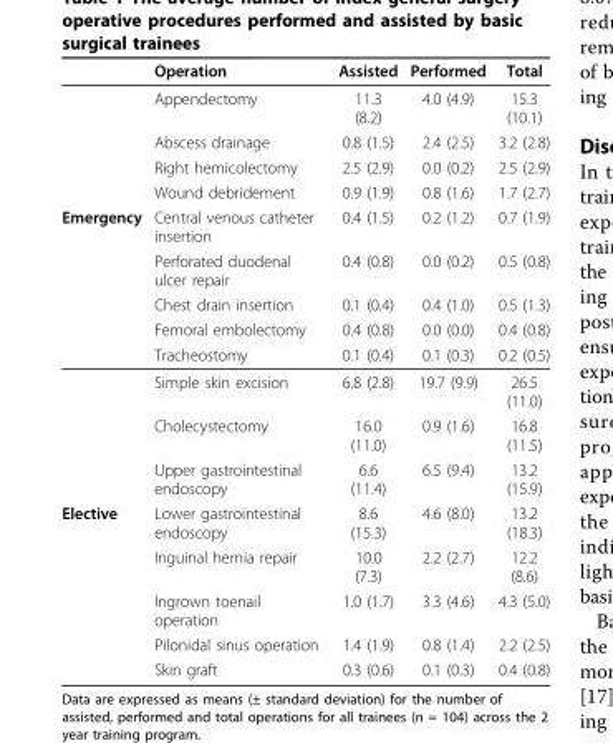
<table><thead><tr><td></td><td>Operation</td><td>Assisted</td><td>Performed</td><td>Total</td></tr></thead><tbody><tr><td></td><td>Appendectomy</td><td>11.3 (8.2)</td><td>4.0 (4.9)</td><td>15.3 (10.1)</td></tr><tr><td></td><td>Abscess drainage</td><td>0.8 (1.5)</td><td>2.4 (2.5)</td><td>3.2 (2.8)</td></tr><tr><td></td><td>Right hemicolectomy</td><td>2.5 (2.9)</td><td>0.0 (0.2)</td><td>2.5 (2.9)</td></tr><tr><td></td><td>Wound debridement</td><td>0.9 (1.9)</td><td>0.8 (1.6)</td><td>1.7 (2.7)</td></tr><tr><td rowspan="8">Emergency</td><td>Central venous catheter insertion</td><td>0.4 (1.5)</td><td>0.2 (1.2)</td><td>0.7 (1.9)</td></tr><tr><td>Perforated duodenal ulcer repair</td><td>0.4 (0.8)</td><td>0.0 (0.2)</td><td>0.5 (0.8)</td></tr><tr><td>Chest drain insertion</td><td>0.1 (0.4)</td><td>0.4 (1.0)</td><td>0.5 (1.3)</td></tr><tr><td>Femoral embolectomy</td><td>0.4 (0.8)</td><td>0.0 (0.0)</td><td>0.4 (0.8)</td></tr><tr><td>Tracheostomy</td><td>0.1 (0.4)</td><td>0.1 (0.3)</td><td>0.2 (0.5)</td></tr><tr><td>Simple skin excision</td><td>6.8 (2.8)</td><td>19.7 (9.9)</td><td>26.5 (11.0)</td></tr><tr><td>Cholecystectomy</td><td>16.0 (11.0)</td><td>0.9 (1.6)</td><td>16.8 (11.5)</td></tr><tr><td>Upper gastrointestinal endoscopy</td><td>6.6 (11.4)</td><td>6.5 (9.4)</td><td>13.2 (15.9)</td></tr><tr><td rowspan="5">Elective</td><td>Lower gastrointestinal endoscopy</td><td>8.6 (15.3)</td><td>4.6 (8.0)</td><td>13.2 (18.3)</td></tr><tr><td>Inguinal hernia repair</td><td>10.0 (7.3)</td><td>2.2 (2.7)</td><td>12.2 (8.6)</td></tr><tr><td>Ingrown toenail operation</td><td>1.0 (1.7)</td><td>3.3 (4.6)</td><td>4.3 (5.0)</td></tr><tr><td>Pilonidal sinus operation</td><td>1.4 (1.9)</td><td>0.8 (1.4)</td><td>2.2 (2.5)</td></tr><tr><td>Skin graft</td><td>0.3 (0.6)</td><td>0.1 (0.3)</td><td>0.4 (0.8)</td></tr></tbody></table>